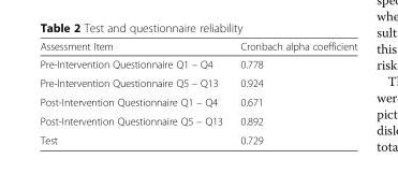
<table><thead><tr><td>Assessment Item</td><td>Cronbach alpha coefficient</td></tr></thead><tbody><tr><td>Pre-Intervention Questionnaire Q1 – Q4</td><td>0.778</td></tr><tr><td>Pre-Intervention Questionnaire Q5 – Q13</td><td>0.924</td></tr><tr><td>Post-Intervention Questionnaire Q1 – Q4</td><td>0.671</td></tr><tr><td>Post-Intervention Questionnaire Q5 – Q13</td><td>0.892</td></tr><tr><td>Test</td><td>0.729</td></tr></tbody></table>